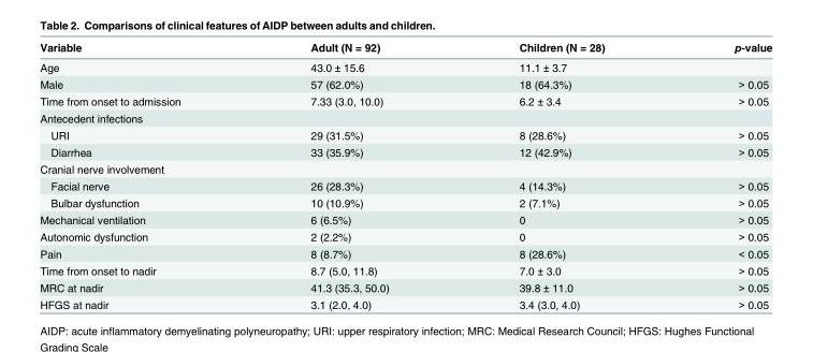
<table><thead><tr><td>Variable</td><td>Adult (N = 92)</td><td>Children (N = 28)</td><td>p-value</td></tr></thead><tbody><tr><td>Age</td><td>43.0 ± 15.6</td><td>11.1 ± 3.7</td><td></td></tr><tr><td>Male</td><td>57 (62.0%)</td><td>18 (64.3%)</td><td>&gt; 0.05</td></tr><tr><td>Time from onset to admission</td><td>7.33 (3.0, 10.0)</td><td>6.2 ± 3.4</td><td>&gt; 0.05</td></tr><tr><td colspan="4">Antecedent infections</td></tr><tr><td>URI</td><td>29 (31.5%)</td><td>8 (28.6%)</td><td>&gt; 0.05</td></tr><tr><td>Diarrhea</td><td>33 (35.9%)</td><td>12 (42.9%)</td><td>&gt; 0.05</td></tr><tr><td colspan="4">Cranial nerve involvement</td></tr><tr><td>Facial nerve</td><td>26 (28.3%)</td><td>4 (14.3%)</td><td>&gt; 0.05</td></tr><tr><td>Bulbar dysfunction</td><td>10 (10.9%)</td><td>2 (7.1%)</td><td>&gt; 0.05</td></tr><tr><td>Mechanical ventilation</td><td>6 (6.5%)</td><td>0</td><td>&gt; 0.05</td></tr><tr><td>Autonomic dysfunction</td><td>2 (2.2%)</td><td>0</td><td>&gt; 0.05</td></tr><tr><td>Pain</td><td>8 (8.7%)</td><td>8 (28.6%)</td><td>&lt; 0.05</td></tr><tr><td>Time from onset to nadir</td><td>8.7 (5.0, 11.8)</td><td>7.0 ± 3.0</td><td>&gt; 0.05</td></tr><tr><td>MRC at nadir</td><td>41.3 (35.3, 50.0)</td><td>39.8 ± 11.0</td><td>&gt; 0.05</td></tr><tr><td>HFGS at nadir</td><td>3.1 (2.0, 4.0)</td><td>3.4 (3.0, 4.0)</td><td>&gt; 0.05</td></tr></tbody></table>